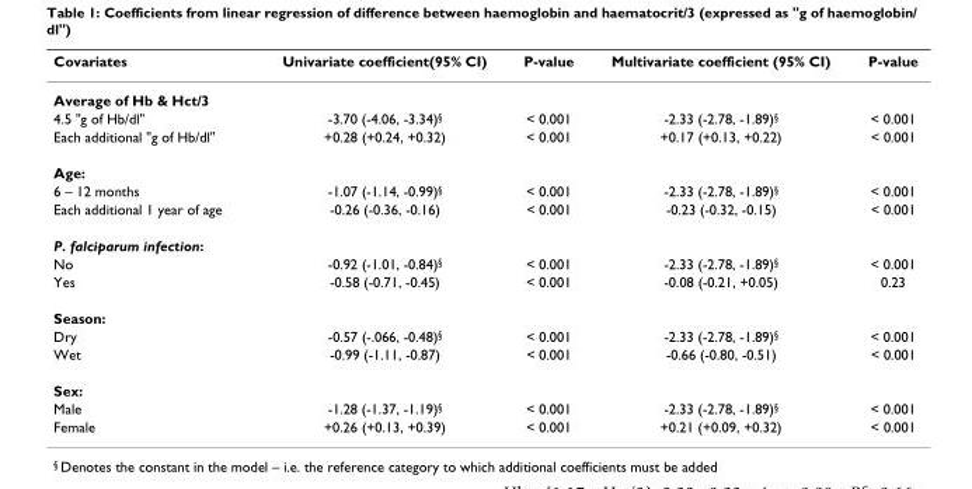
<table><thead><tr><td>Covariates</td><td>Univariate coefficient(95% CI)</td><td>P-value</td><td>Multivariate coefficient (95% CI)</td><td>P-value</td></tr></thead><tbody><tr><td colspan="5">Average of Hb &amp; Hct/3</td></tr><tr><td>4.5 &quot;g of Hb/dl&quot;</td><td>-3.70 (-4.06, -3.34)<sup>§</sup></td><td>&lt; 0.001</td><td>-2.33 (-2.78, -1.89)<sup>§</sup></td><td>&lt; 0.001</td></tr><tr><td>Each additional &quot;g of Hb/dl&quot;</td><td>+0.28 (+0.24, +0.32)</td><td>&lt; 0.001</td><td>+0.17 (+0.13, +0.22)</td><td>&lt; 0.001</td></tr><tr><td colspan="5">Age:</td></tr><tr><td>6 – 12 months</td><td>-1.07 (-1.14, -0.99)<sup>§</sup></td><td>&lt; 0.001</td><td>-2.33 (-2.78, -1.89)<sup>§</sup></td><td>&lt; 0.001</td></tr><tr><td>Each additional 1 year of age</td><td>-0.26 (-0.36, -0.16)</td><td>&lt; 0.001</td><td>-0.23 (-0.32, -0.15)</td><td>&lt; 0.001</td></tr><tr><td colspan="5">P. falciparum infection:</td></tr><tr><td>No</td><td>-0.92 (-1.01, -0.84)<sup>§</sup></td><td>&lt; 0.001</td><td>-2.33 (-2.78, -1.89)<sup>§</sup></td><td>&lt; 0.001</td></tr><tr><td>Yes</td><td>-0.58 (-0.71, -0.45)</td><td>&lt; 0.001</td><td>-0.08 (-0.21, +0.05)</td><td>0.23</td></tr><tr><td colspan="5">Season:</td></tr><tr><td>Dry</td><td>-0.57 (-.066, -0.48)<sup>§</sup></td><td>&lt; 0.001</td><td>-2.33 (-2.78, -1.89)<sup>§</sup></td><td>&lt; 0.001</td></tr><tr><td>Wet</td><td>-0.99 (-1.11, -0.87)</td><td>&lt; 0.001</td><td>-0.66 (-0.80, -0.51)</td><td>&lt; 0.001</td></tr><tr><td colspan="5">Sex:</td></tr><tr><td>Male</td><td>-1.28 (-1.37, -1.19)<sup>§</sup></td><td>&lt; 0.001</td><td>-2.33 (-2.78, -1.89)<sup>§</sup></td><td>&lt; 0.001</td></tr><tr><td>Female</td><td>+0.26 (+0.13, +0.39)</td><td>&lt; 0.001</td><td>+0.21 (+0.09, +0.32)</td><td>&lt; 0.001</td></tr></tbody></table>